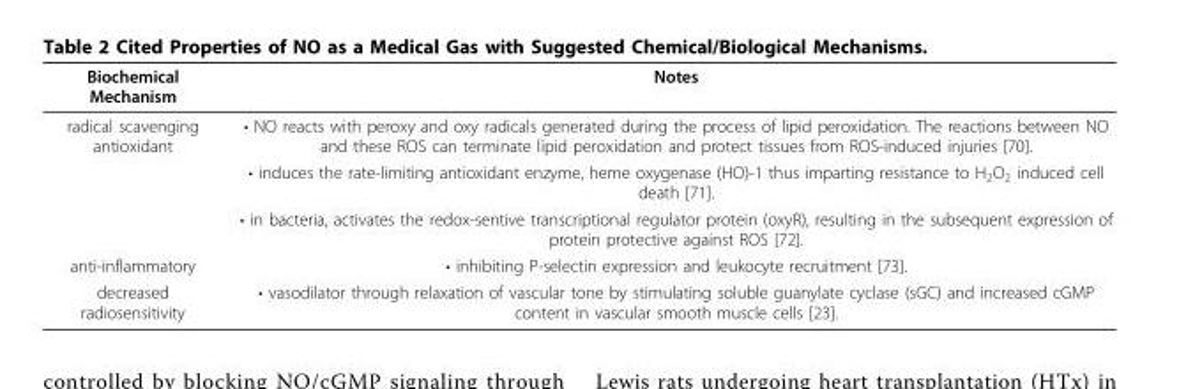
<table><thead><tr><td>Biochemical Mechanism</td><td>Notes</td></tr></thead><tbody><tr><td rowspan="3">radical scavenging antioxidant</td><td>• NO reacts with peroxy and oxy radicals generated during the process of lipid peroxidation. The reactions between NO and these ROS can terminate lipid peroxidation and protect tissues from ROS-induced injuries [70].</td></tr><tr><td>• induces the rate-limiting antioxidant enzyme, heme oxygenase (HO)-1 thus imparting resistance to H<sub>2</sub>O<sub>2</sub> induced cell death [71].</td></tr><tr><td>• in bacteria, activates the redox-sentive transcriptional regulator protein (oxyR), resulting in the subsequent expression of protein protective against ROS [72].</td></tr><tr><td>anti-inflammatory</td><td>• inhibiting P-selectin expression and leukocyte recruitment [73].</td></tr><tr><td>decreased radiosensitivity</td><td>• vasodilator through relaxation of vascular tone by stimulating soluble guanylate cyclase (sGC) and increased cGMP content in vascular smooth muscle cells [23].</td></tr></tbody></table>